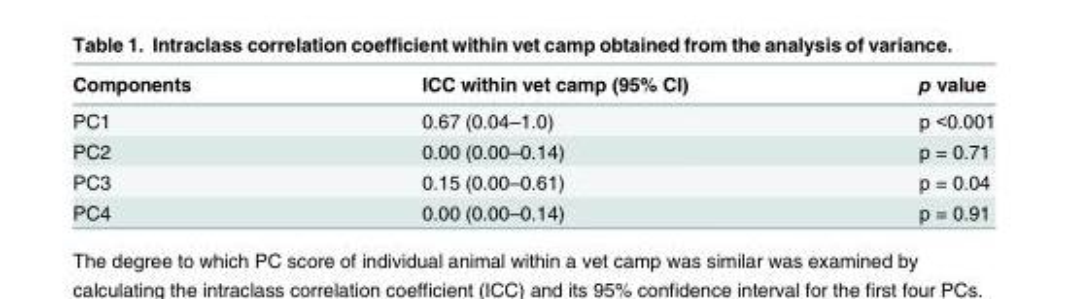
<table><thead><tr><td>Components</td><td>ICC within vet camp (95% CI)</td><td>p value</td></tr></thead><tbody><tr><td>PC1</td><td>0.67 (0.04–1.0)</td><td>p &lt;0.001</td></tr><tr><td>PC2</td><td>0.00 (0.00–0.14)</td><td>p = 0.71</td></tr><tr><td>PC3</td><td>0.15 (0.00–0.61)</td><td>p = 0.04</td></tr><tr><td>PC4</td><td>0.00 (0.00–0.14)</td><td>p = 0.91</td></tr></tbody></table>